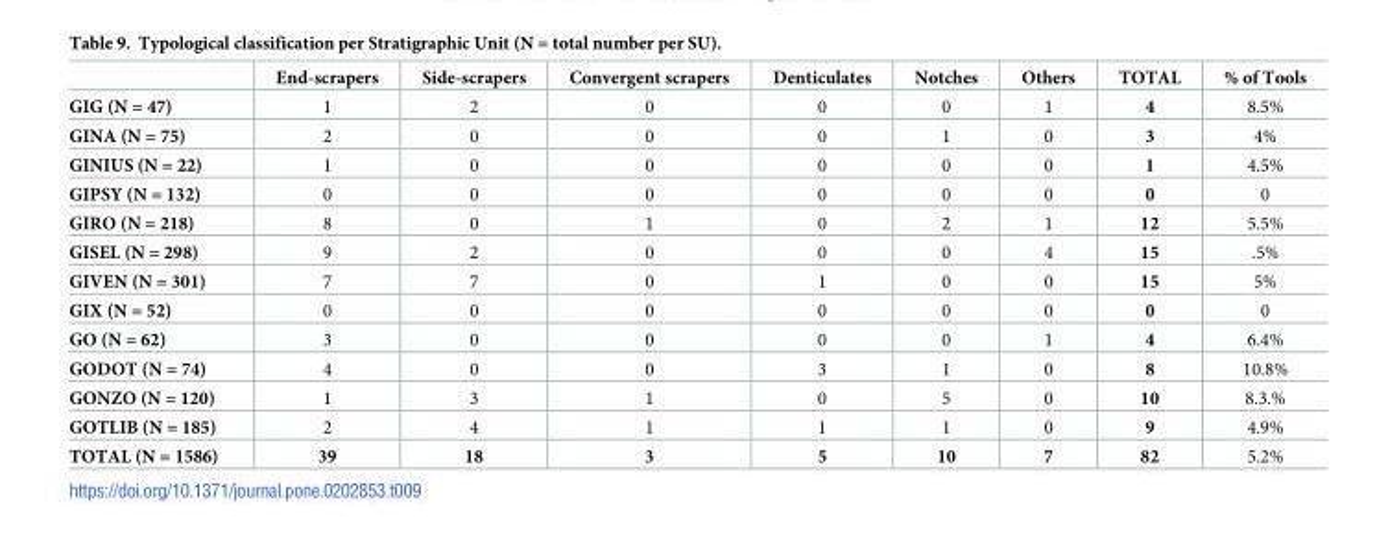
<table><thead><tr><td></td><td>End-scrapers</td><td>Side-scrapers</td><td>Convergent scrapers</td><td>Denticulates</td><td>Notches</td><td>Others</td><td>TOTAL</td><td>% of Tools</td></tr></thead><tbody><tr><td>GIG (N = 47)</td><td>1</td><td>2</td><td>0</td><td>0</td><td>0</td><td>1</td><td>4</td><td>8.5%</td></tr><tr><td>GINA (N = 75)</td><td>2</td><td>0</td><td>0</td><td>0</td><td>1</td><td>0</td><td>3</td><td>4%</td></tr><tr><td>GINIUS (N = 22)</td><td>1</td><td>0</td><td>0</td><td>0</td><td>0</td><td>0</td><td>1</td><td>4.5%</td></tr><tr><td>GIPSY (N = 132)</td><td>0</td><td>0</td><td>0</td><td>0</td><td>0</td><td>0</td><td>0</td><td>0</td></tr><tr><td>GIRO (N = 218)</td><td>8</td><td>0</td><td>1</td><td>0</td><td>2</td><td>1</td><td>12</td><td>5.5%</td></tr><tr><td>GISEL (N = 298)</td><td>9</td><td>2</td><td>0</td><td>0</td><td>0</td><td>4</td><td>15</td><td>.5%</td></tr><tr><td>GIVEN (N = 301)</td><td>7</td><td>7</td><td>0</td><td>1</td><td>0</td><td>0</td><td>15</td><td>5%</td></tr><tr><td>GIX (N = 52)</td><td>0</td><td>0</td><td>0</td><td>0</td><td>0</td><td>0</td><td>0</td><td>0</td></tr><tr><td>GO (N = 62)</td><td>3</td><td>0</td><td>0</td><td>0</td><td>0</td><td>1</td><td>4</td><td>6.4%</td></tr><tr><td>GODOT (N = 74)</td><td>4</td><td>0</td><td>0</td><td>3</td><td>1</td><td>0</td><td>8</td><td>10.8%</td></tr><tr><td>GONZO (N = 120)</td><td>1</td><td>3</td><td>1</td><td>0</td><td>5</td><td>0</td><td>10</td><td>8.3.%</td></tr><tr><td>GOTLIB (N = 185)</td><td>2</td><td>4</td><td>1</td><td>1</td><td>1</td><td>0</td><td>9</td><td>4.9%</td></tr><tr><td>TOTAL (N = 1586)</td><td>39</td><td>18</td><td>3</td><td>5</td><td>10</td><td>7</td><td>82</td><td>5.2%</td></tr></tbody></table>